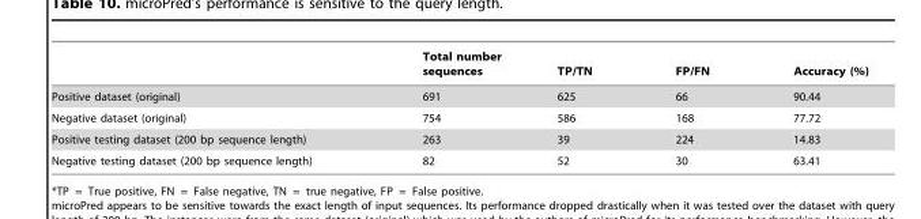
<table><thead><tr><td></td><td>Total number sequences</td><td>TP/TN</td><td>FP/FN</td><td>Accuracy (%)</td></tr></thead><tbody><tr><td>Positive dataset (original)</td><td>691</td><td>625</td><td>66</td><td>90.44</td></tr><tr><td>Negative dataset (original)</td><td>754</td><td>586</td><td>168</td><td>77.72</td></tr><tr><td>Positive testing dataset (200 bp sequence length)</td><td>263</td><td>39</td><td>224</td><td>14.83</td></tr><tr><td>Negative testing dataset (200 bp sequence length)</td><td>82</td><td>52</td><td>30</td><td>63.41</td></tr></tbody></table>